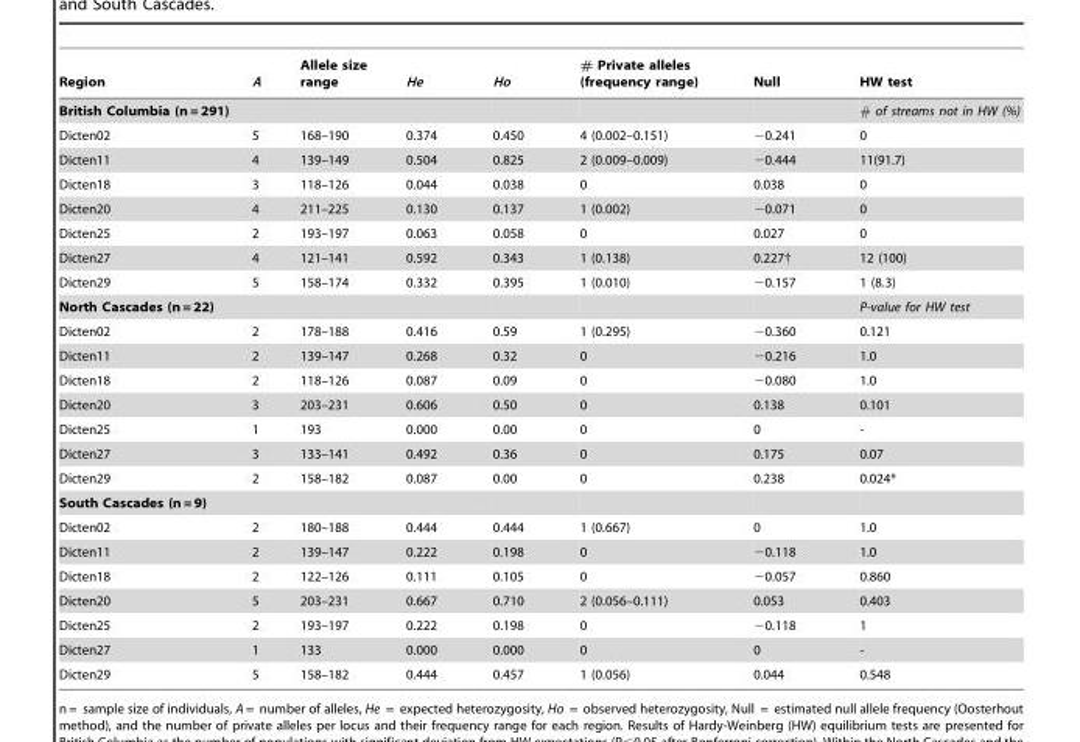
<table><thead><tr><td>Region</td><td>A</td><td>Allele size range</td><td>He</td><td>Ho</td><td># Private alleles (frequency range)</td><td>Null</td><td>HW test</td></tr></thead><tbody><tr><td>British Columbia (n = 291)</td><td></td><td></td><td></td><td></td><td></td><td></td><td># of streams not in HW (%)</td></tr><tr><td>Dicten02</td><td>5</td><td>168–190</td><td>0.374</td><td>0.450</td><td>4 (0.002–0.151)</td><td>−0.241</td><td>0</td></tr><tr><td>Dicten11</td><td>4</td><td>139–149</td><td>0.504</td><td>0.825</td><td>2 (0.009–0.009)</td><td>−0.444</td><td>11(91.7)</td></tr><tr><td>Dicten18</td><td>3</td><td>118–126</td><td>0.044</td><td>0.038</td><td>0</td><td>0.038</td><td>0</td></tr><tr><td>Dicten20</td><td>4</td><td>211–225</td><td>0.130</td><td>0.137</td><td>1 (0.002)</td><td>−0.071</td><td>0</td></tr><tr><td>Dicten25</td><td>2</td><td>193–197</td><td>0.063</td><td>0.058</td><td>0</td><td>0.027</td><td>0</td></tr><tr><td>Dicten27</td><td>4</td><td>121–141</td><td>0.592</td><td>0.343</td><td>1 (0.138)</td><td>0.227†</td><td>12 (100)</td></tr><tr><td>Dicten29</td><td>5</td><td>158–174</td><td>0.332</td><td>0.395</td><td>1 (0.010)</td><td>−0.157</td><td>1 (8.3)</td></tr><tr><td>North Cascades (n = 22)</td><td></td><td></td><td></td><td></td><td></td><td></td><td>P-value for HW test</td></tr><tr><td>Dicten02</td><td>2</td><td>178–188</td><td>0.416</td><td>0.59</td><td>1 (0.295)</td><td>−0.360</td><td>0.121</td></tr><tr><td>Dicten11</td><td>2</td><td>139–147</td><td>0.268</td><td>0.32</td><td>0</td><td>−0.216</td><td>1.0</td></tr><tr><td>Dicten18</td><td>2</td><td>118–126</td><td>0.087</td><td>0.09</td><td>0</td><td>−0.080</td><td>1.0</td></tr><tr><td>Dicten20</td><td>3</td><td>203–231</td><td>0.606</td><td>0.50</td><td>0</td><td>0.138</td><td>0.101</td></tr><tr><td>Dicten25</td><td>1</td><td>193</td><td>0.000</td><td>0.00</td><td>0</td><td>0</td><td>-</td></tr><tr><td>Dicten27</td><td>3</td><td>133–141</td><td>0.492</td><td>0.36</td><td>0</td><td>0.175</td><td>0.07</td></tr><tr><td>Dicten29</td><td>2</td><td>158–182</td><td>0.087</td><td>0.00</td><td>0</td><td>0.238</td><td>0.024*</td></tr><tr><td colspan="8">South Cascades (n = 9)</td></tr><tr><td>Dicten02</td><td>2</td><td>180–188</td><td>0.444</td><td>0.444</td><td>1 (0.667)</td><td>0</td><td>1.0</td></tr><tr><td>Dicten11</td><td>2</td><td>139–147</td><td>0.222</td><td>0.198</td><td>0</td><td>−0.118</td><td>1.0</td></tr><tr><td>Dicten18</td><td>2</td><td>122–126</td><td>0.111</td><td>0.105</td><td>0</td><td>−0.057</td><td>0.860</td></tr><tr><td>Dicten20</td><td>5</td><td>203–231</td><td>0.667</td><td>0.710</td><td>2 (0.056–0.111)</td><td>0.053</td><td>0.403</td></tr><tr><td>Dicten25</td><td>2</td><td>193–197</td><td>0.222</td><td>0.198</td><td>0</td><td>−0.118</td><td>1</td></tr><tr><td>Dicten27</td><td>1</td><td>133</td><td>0.000</td><td>0.000</td><td>0</td><td>0</td><td>-</td></tr><tr><td>Dicten29</td><td>5</td><td>158–182</td><td>0.444</td><td>0.457</td><td>1 (0.056)</td><td>0.044</td><td>0.548</td></tr></tbody></table>